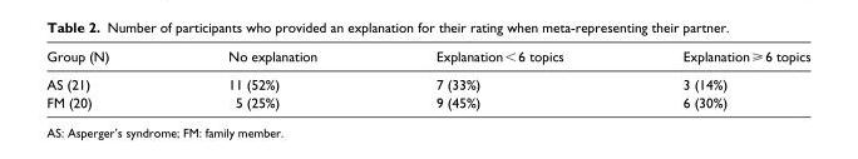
<table><thead><tr><td>Group (N)</td><td>No explanation</td><td>Explanation &lt; 6 topics</td><td>Explanation ⩾ 6 topics</td></tr></thead><tbody><tr><td>AS (21)</td><td>11 (52%)</td><td>7 (33%)</td><td>3 (14%)</td></tr><tr><td>FM (20)</td><td>5 (25%)</td><td>9 (45%)</td><td>6 (30%)</td></tr></tbody></table>